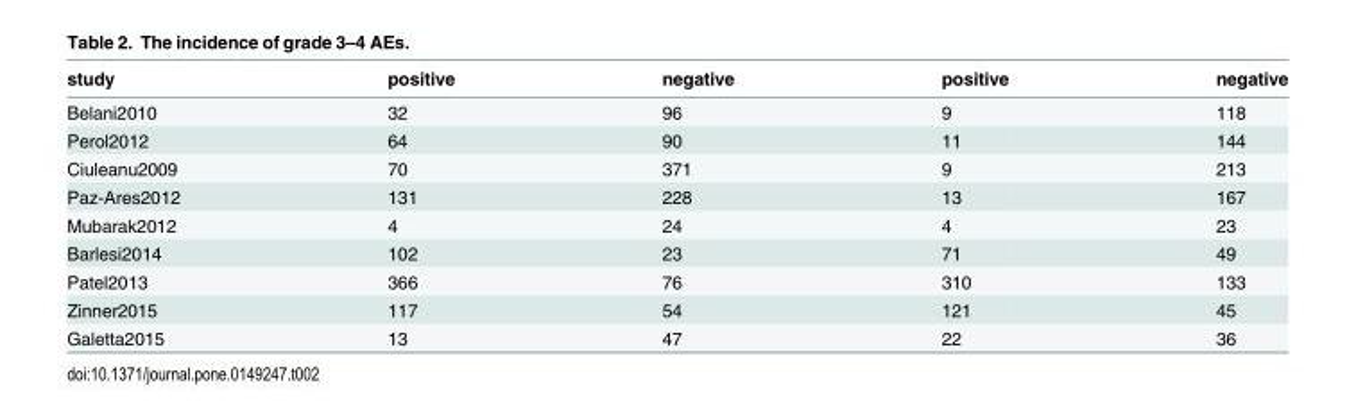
<table><thead><tr><td>study</td><td>positive</td><td>negative</td><td>positive</td><td>negative</td></tr></thead><tbody><tr><td>Belani2010</td><td>32</td><td>96</td><td>9</td><td>118</td></tr><tr><td>Perol2012</td><td>64</td><td>90</td><td>11</td><td>144</td></tr><tr><td>Ciuleanu2009</td><td>70</td><td>371</td><td>9</td><td>213</td></tr><tr><td>Paz-Ares2012</td><td>131</td><td>228</td><td>13</td><td>167</td></tr><tr><td>Mubarak2012</td><td>4</td><td>24</td><td>4</td><td>23</td></tr><tr><td>Barlesi2014</td><td>102</td><td>23</td><td>71</td><td>49</td></tr><tr><td>Patel2013</td><td>366</td><td>76</td><td>310</td><td>133</td></tr><tr><td>Zinner2015</td><td>117</td><td>54</td><td>121</td><td>45</td></tr><tr><td>Galetta2015</td><td>13</td><td>47</td><td>22</td><td>36</td></tr></tbody></table>